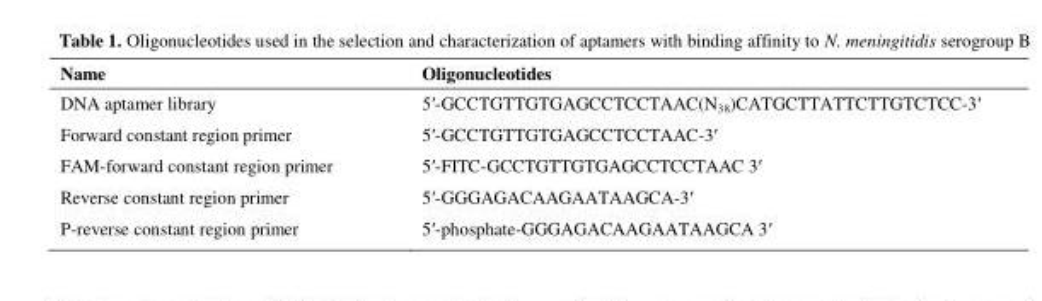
<table><thead><tr><td>Name</td><td>Oligonucleotides</td></tr></thead><tbody><tr><td>DNA aptamer library</td><td>5′-GCCTGTTGTGAGCCTCCTAAC(N38)CATGCTTATTCTTGTCTCC-3′</td></tr><tr><td>Forward constant region primer</td><td>5′-GCCTGTTGTGAGCCTCCTAAC-3′</td></tr><tr><td>FAM-forward constant region primer</td><td>5′-FITC-GCCTGTTGTGAGCCTCCTAAC 3′</td></tr><tr><td>Reverse constant region primer</td><td>5′-GGGAGACAAGAATAAGCA-3′</td></tr><tr><td>P-reverse constant region primer</td><td>5′-phosphate-GGGAGACAAGAATAAGCA 3′</td></tr></tbody></table>